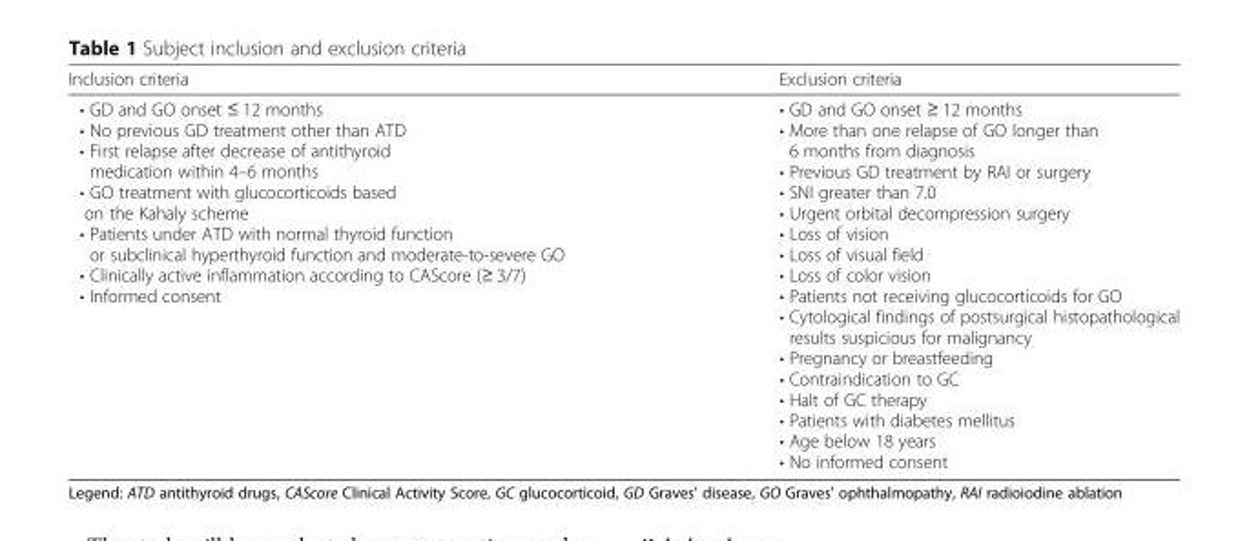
<table><thead><tr><td>Inclusion criteria</td><td>Exclusion criteria</td></tr></thead><tbody><tr><td>• GD and GO onset ≤ 12 months • No previous GD treatment other than ATD • First relapse after decrease of antithyroid medication within 4–6 months • GO treatment with glucocorticoids based on the Kahaly scheme • Patients under ATD with normal thyroid function or subclinical hyperthyroid function and moderate-to-severe GO • Clinically active inflammation according to CAScore (≥ 3/7) • Informed consent</td><td>• GD and GO onset ≥ 12 months • More than one relapse of GO longer than 6 months from diagnosis • Previous GD treatment by RAI or surgery • SNI greater than 7.0 • Urgent orbital decompression surgery • Loss of vision • Loss of visual field • Loss of color vision • Patients not receiving glucocorticoids for GO • Cytological findings of postsurgical histopathological results suspicious for malignancy • Pregnancy or breastfeeding • Contraindication to GC • Halt of GC therapy • Patients with diabetes mellitus • Age below 18 years • No informed consent</td></tr></tbody></table>